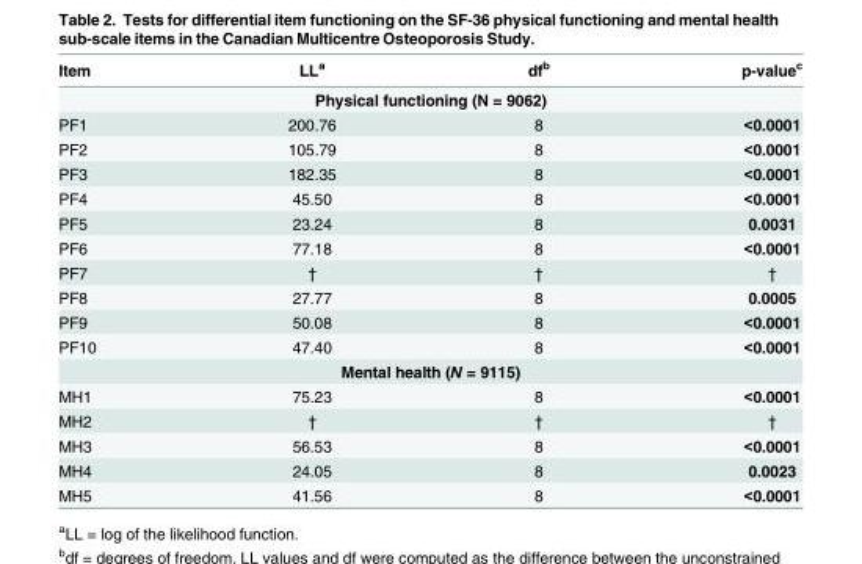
<table><thead><tr><td>Item</td><td>LL<sup>a</sup></td><td>df<sup>b</sup></td><td>p-value<sup>c</sup></td></tr></thead><tbody><tr><td colspan="4">Physical functioning (N = 9062)</td></tr><tr><td>PF1</td><td>200.76</td><td>8</td><td>&lt;0.0001</td></tr><tr><td>PF2</td><td>105.79</td><td>8</td><td>&lt;0.0001</td></tr><tr><td>PF3</td><td>182.35</td><td>8</td><td>&lt;0.0001</td></tr><tr><td>PF4</td><td>45.50</td><td>8</td><td>&lt;0.0001</td></tr><tr><td>PF5</td><td>23.24</td><td>8</td><td>0.0031</td></tr><tr><td>PF6</td><td>77.18</td><td>8</td><td>&lt;0.0001</td></tr><tr><td>PF7</td><td>†</td><td>†</td><td>†</td></tr><tr><td>PF8</td><td>27.77</td><td>8</td><td>0.0005</td></tr><tr><td>PF9</td><td>50.08</td><td>8</td><td>&lt;0.0001</td></tr><tr><td>PF10</td><td>47.40</td><td>8</td><td>&lt;0.0001</td></tr><tr><td colspan="4">Mental health (N = 9115)</td></tr><tr><td>MH1</td><td>75.23</td><td>8</td><td>&lt;0.0001</td></tr><tr><td>MH2</td><td>†</td><td>†</td><td>†</td></tr><tr><td>MH3</td><td>56.53</td><td>8</td><td>&lt;0.0001</td></tr><tr><td>MH4</td><td>24.05</td><td>8</td><td>0.0023</td></tr><tr><td>MH5</td><td>41.56</td><td>8</td><td>&lt;0.0001</td></tr></tbody></table>